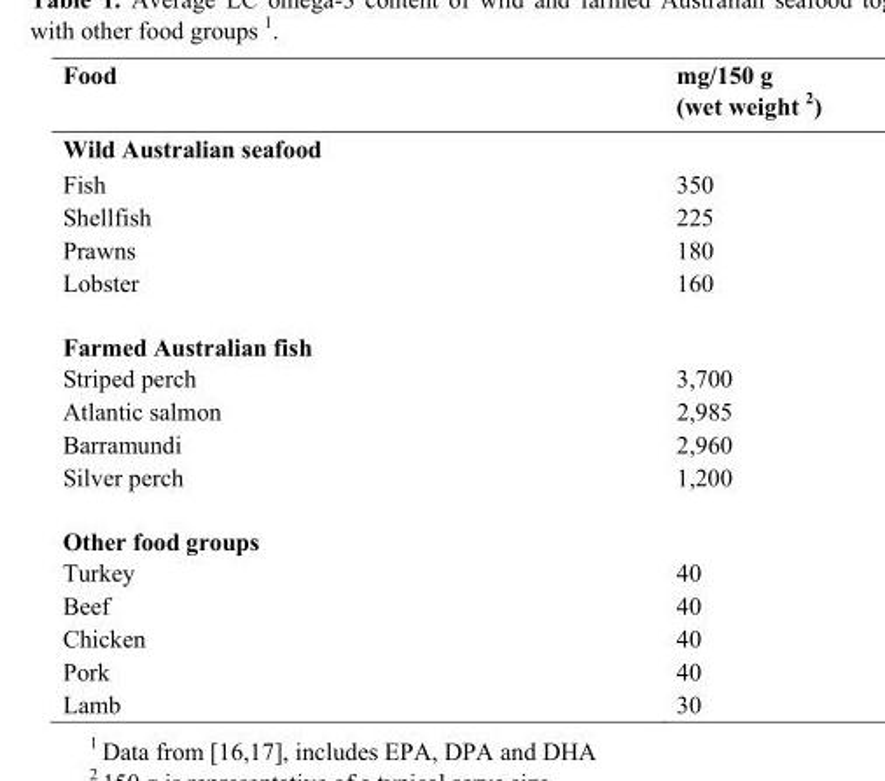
<table><thead><tr><td>Food</td><td>mg/150 g (wet weight <sup>2</sup>)</td></tr></thead><tbody><tr><td colspan="2">Wild Australian seafood</td></tr><tr><td>Fish</td><td>350</td></tr><tr><td>Shellfish</td><td>225</td></tr><tr><td>Prawns</td><td>180</td></tr><tr><td>Lobster</td><td>160</td></tr><tr><td colspan="2">Farmed Australian fish</td></tr><tr><td>Striped perch</td><td>3,700</td></tr><tr><td>Atlantic salmon</td><td>2,985</td></tr><tr><td>Barramundi</td><td>2,960</td></tr><tr><td>Silver perch</td><td>1,200</td></tr><tr><td colspan="2">Other food groups</td></tr><tr><td>Turkey</td><td>40</td></tr><tr><td>Beef</td><td>40</td></tr><tr><td>Chicken</td><td>40</td></tr><tr><td>Pork</td><td>40</td></tr><tr><td>Lamb</td><td>30</td></tr></tbody></table>